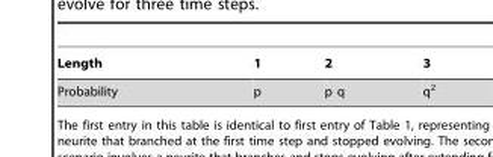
<table><thead><tr><td>Length</td><td>1</td><td>2</td><td>3</td></tr></thead><tbody><tr><td>Probability</td><td>p</td><td>p q</td><td>q<sup>2</sup></td></tr></tbody></table>